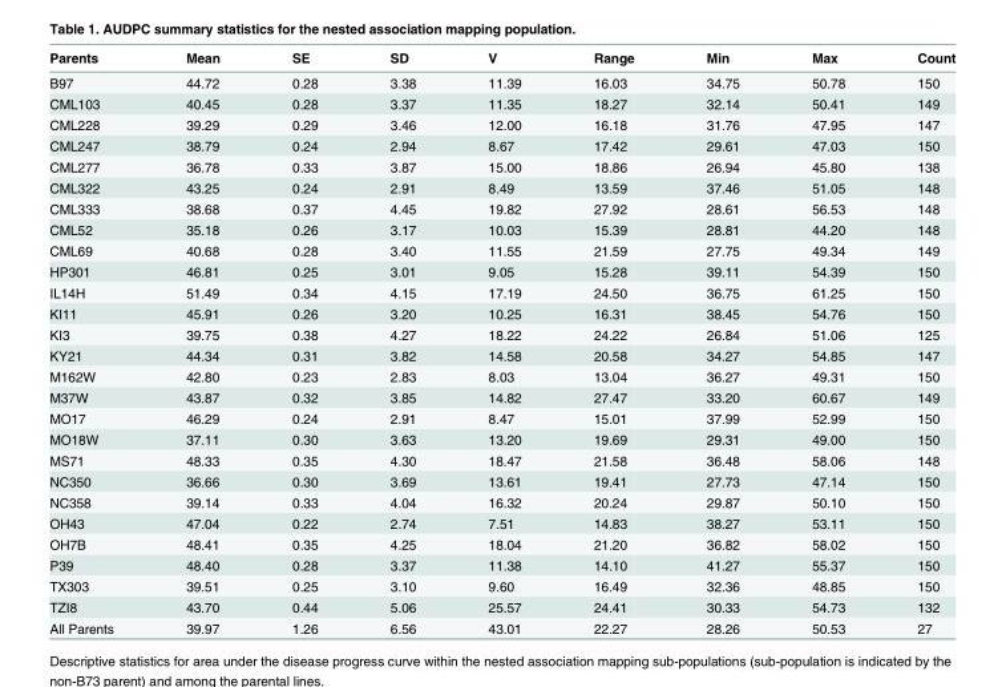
<table><thead><tr><td>Parents</td><td>Mean</td><td>SE</td><td>SD</td><td>V</td><td>Range</td><td>Min</td><td>Max</td><td>Count</td></tr></thead><tbody><tr><td>B97</td><td>44.72</td><td>0.28</td><td>3.38</td><td>11.39</td><td>16.03</td><td>34.75</td><td>50.78</td><td>150</td></tr><tr><td>CML103</td><td>40.45</td><td>0.28</td><td>3.37</td><td>11.35</td><td>18.27</td><td>32.14</td><td>50.41</td><td>149</td></tr><tr><td>CML228</td><td>39.29</td><td>0.29</td><td>3.46</td><td>12.00</td><td>16.18</td><td>31.76</td><td>47.95</td><td>147</td></tr><tr><td>CML247</td><td>38.79</td><td>0.24</td><td>2.94</td><td>8.67</td><td>17.42</td><td>29.61</td><td>47.03</td><td>150</td></tr><tr><td>CML277</td><td>36.78</td><td>0.33</td><td>3.87</td><td>15.00</td><td>18.86</td><td>26.94</td><td>45.80</td><td>138</td></tr><tr><td>CML322</td><td>43.25</td><td>0.24</td><td>2.91</td><td>8.49</td><td>13.59</td><td>37.46</td><td>51.05</td><td>148</td></tr><tr><td>CML333</td><td>38.68</td><td>0.37</td><td>4.45</td><td>19.82</td><td>27.92</td><td>28.61</td><td>56.53</td><td>148</td></tr><tr><td>CML52</td><td>35.18</td><td>0.26</td><td>3.17</td><td>10.03</td><td>15.39</td><td>28.81</td><td>44.20</td><td>148</td></tr><tr><td>CML69</td><td>40.68</td><td>0.28</td><td>3.40</td><td>11.55</td><td>21.59</td><td>27.75</td><td>49.34</td><td>149</td></tr><tr><td>HP301</td><td>46.81</td><td>0.25</td><td>3.01</td><td>9.05</td><td>15.28</td><td>39.11</td><td>54.39</td><td>150</td></tr><tr><td>IL14H</td><td>51.49</td><td>0.34</td><td>4.15</td><td>17.19</td><td>24.50</td><td>36.75</td><td>61.25</td><td>150</td></tr><tr><td>KI11</td><td>45.91</td><td>0.26</td><td>3.20</td><td>10.25</td><td>16.31</td><td>38.45</td><td>54.76</td><td>150</td></tr><tr><td>KI3</td><td>39.75</td><td>0.38</td><td>4.27</td><td>18.22</td><td>24.22</td><td>26.84</td><td>51.06</td><td>125</td></tr><tr><td>KY21</td><td>44.34</td><td>0.31</td><td>3.82</td><td>14.58</td><td>20.58</td><td>34.27</td><td>54.85</td><td>147</td></tr><tr><td>M162W</td><td>42.80</td><td>0.23</td><td>2.83</td><td>8.03</td><td>13.04</td><td>36.27</td><td>49.31</td><td>150</td></tr><tr><td>M37W</td><td>43.87</td><td>0.32</td><td>3.85</td><td>14.82</td><td>27.47</td><td>33.20</td><td>60.67</td><td>149</td></tr><tr><td>MO17</td><td>46.29</td><td>0.24</td><td>2.91</td><td>8.47</td><td>15.01</td><td>37.99</td><td>52.99</td><td>150</td></tr><tr><td>MO18W</td><td>37.11</td><td>0.30</td><td>3.63</td><td>13.20</td><td>19.69</td><td>29.31</td><td>49.00</td><td>150</td></tr><tr><td>MS71</td><td>48.33</td><td>0.35</td><td>4.30</td><td>18.47</td><td>21.58</td><td>36.48</td><td>58.06</td><td>148</td></tr><tr><td>NC350</td><td>36.66</td><td>0.30</td><td>3.69</td><td>13.61</td><td>19.41</td><td>27.73</td><td>47.14</td><td>150</td></tr><tr><td>NC358</td><td>39.14</td><td>0.33</td><td>4.04</td><td>16.32</td><td>20.24</td><td>29.87</td><td>50.10</td><td>150</td></tr><tr><td>OH43</td><td>47.04</td><td>0.22</td><td>2.74</td><td>7.51</td><td>14.83</td><td>38.27</td><td>53.11</td><td>150</td></tr><tr><td>OH7B</td><td>48.41</td><td>0.35</td><td>4.25</td><td>18.04</td><td>21.20</td><td>36.82</td><td>58.02</td><td>150</td></tr><tr><td>P39</td><td>48.40</td><td>0.28</td><td>3.37</td><td>11.38</td><td>14.10</td><td>41.27</td><td>55.37</td><td>150</td></tr><tr><td>TX303</td><td>39.51</td><td>0.25</td><td>3.10</td><td>9.60</td><td>16.49</td><td>32.36</td><td>48.85</td><td>150</td></tr><tr><td>TZI8</td><td>43.70</td><td>0.44</td><td>5.06</td><td>25.57</td><td>24.41</td><td>30.33</td><td>54.73</td><td>132</td></tr><tr><td>All Parents</td><td>39.97</td><td>1.26</td><td>6.56</td><td>43.01</td><td>22.27</td><td>28.26</td><td>50.53</td><td>27</td></tr></tbody></table>